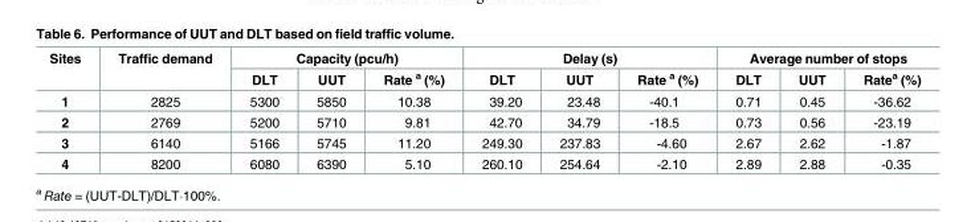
<table><thead><tr><td rowspan="2">Sites</td><td rowspan="2">Traffic demand</td><td colspan="3">Capacity (pcu/h)</td><td colspan="3">Delay (s)</td><td colspan="3">Average number of stops</td></tr><tr><td>DLT</td><td>UUT</td><td>Rate <sup>a</sup> (%)</td><td>DLT</td><td>UUT</td><td>Rate <sup>a</sup> (%)</td><td>DLT</td><td>UUT</td><td>Rate<sup>a</sup> (%)</td></tr></thead><tbody><tr><td>1</td><td>2825</td><td>5300</td><td>5850</td><td>10.38</td><td>39.20</td><td>23.48</td><td>-40.1</td><td>0.71</td><td>0.45</td><td>-36.62</td></tr><tr><td>2</td><td>2769</td><td>5200</td><td>5710</td><td>9.81</td><td>42.70</td><td>34.79</td><td>-18.5</td><td>0.73</td><td>0.56</td><td>-23.19</td></tr><tr><td>3</td><td>6140</td><td>5166</td><td>5745</td><td>11.20</td><td>249.30</td><td>237.83</td><td>-4.60</td><td>2.67</td><td>2.62</td><td>-1.87</td></tr><tr><td>4</td><td>8200</td><td>6080</td><td>6390</td><td>5.10</td><td>260.10</td><td>254.64</td><td>-2.10</td><td>2.89</td><td>2.88</td><td>-0.35</td></tr></tbody></table>